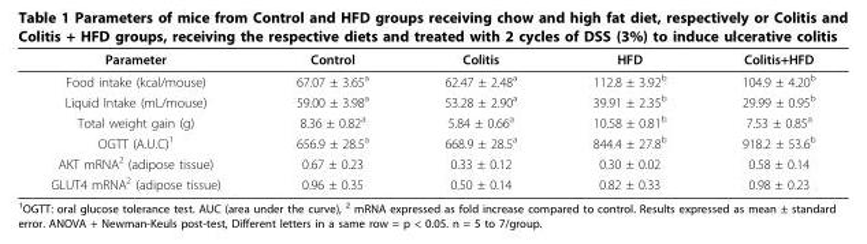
<table><thead><tr><td>Parameter</td><td>Control</td><td>Colitis</td><td>HFD</td><td>Colitis+HFD</td></tr></thead><tbody><tr><td>Food intake (kcal/mouse)</td><td>67.07 ± 3.65<sup>a</sup></td><td>62.47 ± 2.48<sup>a</sup></td><td>112.8 ± 3.92<sup>b</sup></td><td>104.9 ± 4.20<sup>b</sup></td></tr><tr><td>Liquid Intake (mL/mouse)</td><td>59.00 ± 3.98<sup>a</sup></td><td>53.28 ± 2.90<sup>a</sup></td><td>39.91 ± 2.35<sup>b</sup></td><td>29.99 ± 0.95<sup>b</sup></td></tr><tr><td>Total weight gain (g)</td><td>8.36 ± 0.82<sup>a</sup></td><td>5.84 ± 0.66<sup>a</sup></td><td>10.58 ± 0.81<sup>b</sup></td><td>7.53 ± 0.85<sup>a</sup></td></tr><tr><td>OGTT (A.U.C)<sup>1</sup></td><td>656.9 ± 28.5<sup>a</sup></td><td>668.9 ± 28.5<sup>a</sup></td><td>844.4 ± 27.8<sup>b</sup></td><td>918.2 ± 53.6<sup>b</sup></td></tr><tr><td>AKT mRNA<sup>2</sup> (adipose tissue)</td><td>0.67 ± 0.23</td><td>0.33 ± 0.12</td><td>0.30 ± 0.02</td><td>0.58 ± 0.14</td></tr><tr><td>GLUT4 mRNA<sup>2</sup> (adipose tissue)</td><td>0.96 ± 0.35</td><td>0.50 ± 0.14</td><td>0.82 ± 0.33</td><td>0.98 ± 0.23</td></tr></tbody></table>